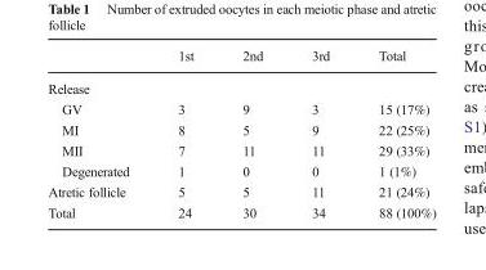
<table><thead><tr><td></td><td>1st</td><td>2nd</td><td>3rd</td><td>Total</td></tr></thead><tbody><tr><td colspan="5">Release</td></tr><tr><td>GV</td><td>3</td><td>9</td><td>3</td><td>15 (17%)</td></tr><tr><td>MI</td><td>8</td><td>5</td><td>9</td><td>22 (25%)</td></tr><tr><td>MII</td><td>7</td><td>11</td><td>11</td><td>29 (33%)</td></tr><tr><td>Degenerated</td><td>1</td><td>0</td><td>0</td><td>1 (1%)</td></tr><tr><td>Atretic follicle</td><td>5</td><td>5</td><td>11</td><td>21 (24%)</td></tr><tr><td>Total</td><td>24</td><td>30</td><td>34</td><td>88 (100%)</td></tr></tbody></table>